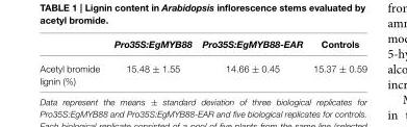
<table><thead><tr><td></td><td>Pro35S:EgMYB88</td><td>Pro35S:EgMYB88-EAR</td><td>Controls</td></tr></thead><tbody><tr><td>Acetyl bromide lignin (%)</td><td>15.48 ± 1.55</td><td>14.66 ± 0.45</td><td>15.37 ± 0.59</td></tr></tbody></table>